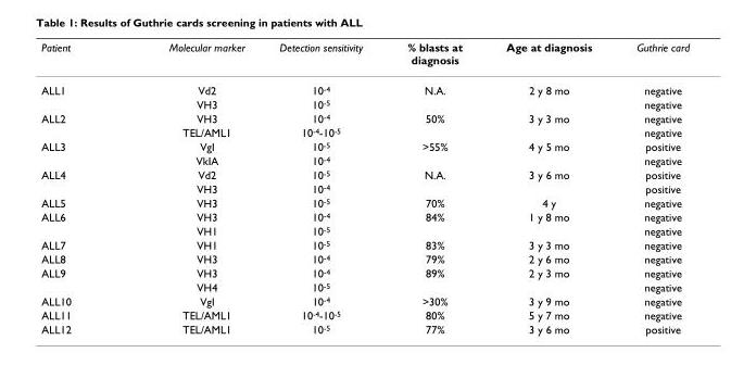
<table><thead><tr><td>Patient</td><td>Molecular marker</td><td>Detection sensitivity</td><td>% blasts at diagnosis</td><td>Age at diagnosis</td><td>Guthrie card</td></tr></thead><tbody><tr><td rowspan="2">ALL1</td><td>Vd2</td><td>10-4</td><td>N.A.</td><td>2 y 8 mo</td><td>negative</td></tr><tr><td>VH3</td><td>10-5</td><td></td><td></td><td>negative</td></tr><tr><td rowspan="2">ALL2</td><td>VH3</td><td>10-4</td><td>50%</td><td>3 y 3 mo</td><td>negative</td></tr><tr><td>TEL/AML1</td><td>10-4-10-5</td><td></td><td></td><td>negative</td></tr><tr><td rowspan="2">ALL3</td><td>VgI</td><td>10-5</td><td>&gt;55%</td><td>4 y 5 mo</td><td>positive</td></tr><tr><td>VkIA</td><td>10-4</td><td></td><td></td><td>negative</td></tr><tr><td rowspan="2">ALL4</td><td>Vd2</td><td>10-5</td><td>N.A.</td><td>3 y 6 mo</td><td>positive</td></tr><tr><td>VH3</td><td>10-4</td><td></td><td></td><td>positive</td></tr><tr><td>ALL5</td><td>VH3</td><td>10-5</td><td>70%</td><td>4 y</td><td>negative</td></tr><tr><td rowspan="2">ALL6</td><td>VH3</td><td>10-4</td><td>84%</td><td>1 y 8 mo</td><td>negative</td></tr><tr><td>VH1</td><td>10-5</td><td></td><td></td><td>negative</td></tr><tr><td>ALL7</td><td>VH1</td><td>10-5</td><td>83%</td><td>3 y 3 mo</td><td>negative</td></tr><tr><td>ALL8</td><td>VH3</td><td>10-4</td><td>79%</td><td>2 y 6 mo</td><td>negative</td></tr><tr><td rowspan="2">ALL9</td><td>VH3</td><td>10-4</td><td>89%</td><td>2 y 3 mo</td><td>negative</td></tr><tr><td>VH4</td><td>10-5</td><td></td><td></td><td>negative</td></tr><tr><td>ALL10</td><td>VgI</td><td>10-4</td><td>&gt;30%</td><td>3 y 9 mo</td><td>negative</td></tr><tr><td>ALL11</td><td>TEL/AML1</td><td>10-4-10-5</td><td>80%</td><td>5 y 7 mo</td><td>negative</td></tr><tr><td>ALL12</td><td>TEL/AML1</td><td>10-5</td><td>77%</td><td>3 y 6 mo</td><td>positive</td></tr></tbody></table>